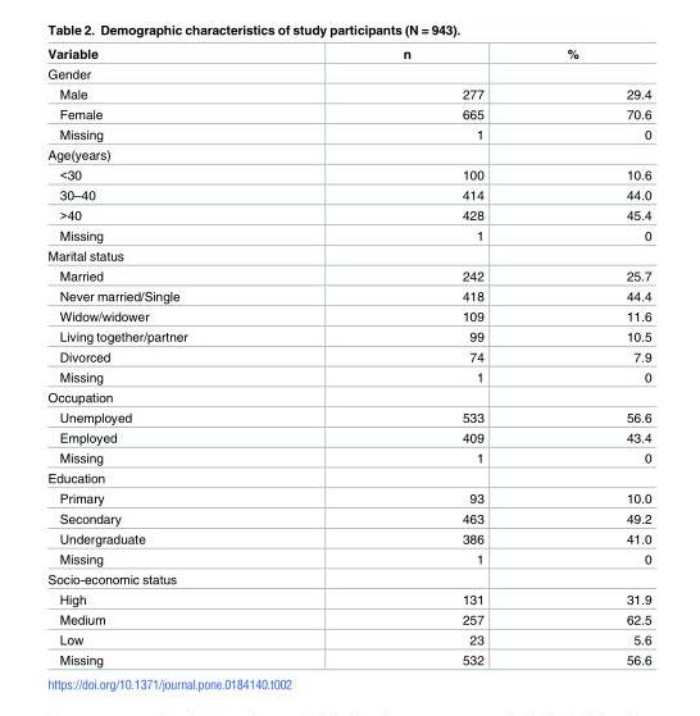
<table><thead><tr><td>Variable</td><td>n</td><td>%</td></tr></thead><tbody><tr><td colspan="3">Gender</td></tr><tr><td>Male</td><td>277</td><td>29.4</td></tr><tr><td>Female</td><td>665</td><td>70.6</td></tr><tr><td>Missing</td><td>1</td><td>0</td></tr><tr><td colspan="3">Age(years)</td></tr><tr><td>&lt;30</td><td>100</td><td>10.6</td></tr><tr><td>30–40</td><td>414</td><td>44.0</td></tr><tr><td>&gt;40</td><td>428</td><td>45.4</td></tr><tr><td>Missing</td><td>1</td><td>0</td></tr><tr><td colspan="3">Marital status</td></tr><tr><td>Married</td><td>242</td><td>25.7</td></tr><tr><td>Never married/Single</td><td>418</td><td>44.4</td></tr><tr><td>Widow/widower</td><td>109</td><td>11.6</td></tr><tr><td>Living together/partner</td><td>99</td><td>10.5</td></tr><tr><td>Divorced</td><td>74</td><td>7.9</td></tr><tr><td>Missing</td><td>1</td><td>0</td></tr><tr><td colspan="3">Occupation</td></tr><tr><td>Unemployed</td><td>533</td><td>56.6</td></tr><tr><td>Employed</td><td>409</td><td>43.4</td></tr><tr><td>Missing</td><td>1</td><td>0</td></tr><tr><td colspan="3">Education</td></tr><tr><td>Primary</td><td>93</td><td>10.0</td></tr><tr><td>Secondary</td><td>463</td><td>49.2</td></tr><tr><td>Undergraduate</td><td>386</td><td>41.0</td></tr><tr><td>Missing</td><td>1</td><td>0</td></tr><tr><td colspan="3">Socio-economic status</td></tr><tr><td>High</td><td>131</td><td>31.9</td></tr><tr><td>Medium</td><td>257</td><td>62.5</td></tr><tr><td>Low</td><td>23</td><td>5.6</td></tr><tr><td>Missing</td><td>532</td><td>56.6</td></tr></tbody></table>